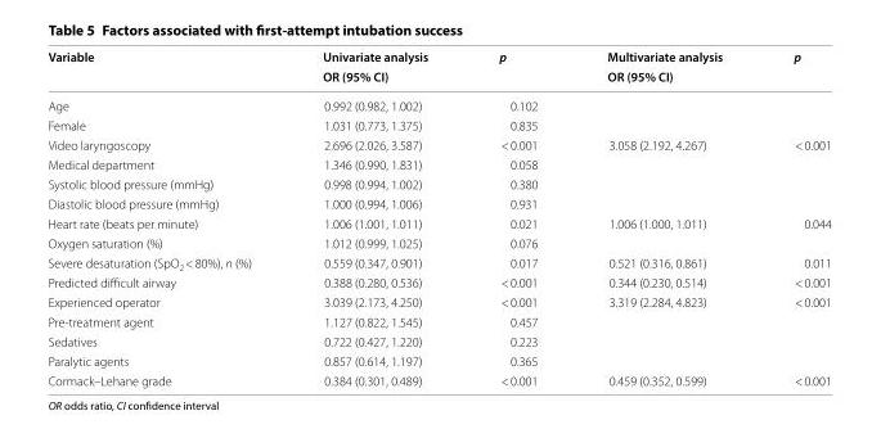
<table><thead><tr><td rowspan="2">Variable</td><td rowspan="2">Univariate analysis OR (95% CI)</td><td rowspan="2">p</td><td rowspan="2">Multivariate analysis OR (95% CI)</td><td rowspan="2">p</td></tr><tr></tr></thead><tbody><tr><td>Age</td><td>0.992 (0.982, 1.002)</td><td>0.102</td><td></td><td></td></tr><tr><td>Female</td><td>1.031 (0.773, 1.375)</td><td>0.835</td><td></td><td></td></tr><tr><td>Video laryngoscopy</td><td>2.696 (2.026, 3.587)</td><td>&lt; 0.001</td><td>3.058 (2.192, 4.267)</td><td>&lt; 0.001</td></tr><tr><td>Medical department</td><td>1.346 (0.990, 1.831)</td><td>0.058</td><td></td><td></td></tr><tr><td>Systolic blood pressure (mmHg)</td><td>0.998 (0.994, 1.002)</td><td>0.380</td><td></td><td></td></tr><tr><td>Diastolic blood pressure (mmHg)</td><td>1.000 (0.994, 1.006)</td><td>0.931</td><td></td><td></td></tr><tr><td>Heart rate (beats per minute)</td><td>1.006 (1.001, 1.011)</td><td>0.021</td><td>1.006 (1.000, 1.011)</td><td>0.044</td></tr><tr><td>Oxygen saturation (%)</td><td>1.012 (0.999, 1.025)</td><td>0.076</td><td></td><td></td></tr><tr><td>Severe desaturation (SpO<sub>2</sub> &lt; 80%), n (%)</td><td>0.559 (0.347, 0.901)</td><td>0.017</td><td>0.521 (0.316, 0.861)</td><td>0.011</td></tr><tr><td>Predicted difficult airway</td><td>0.388 (0.280, 0.536)</td><td>&lt; 0.001</td><td>0.344 (0.230, 0.514)</td><td>&lt; 0.001</td></tr><tr><td>Experienced operator</td><td>3.039 (2.173, 4.250)</td><td>&lt; 0.001</td><td>3.319 (2.284, 4.823)</td><td>&lt; 0.001</td></tr><tr><td>Pre‑treatment agent</td><td>1.127 (0.822, 1.545)</td><td>0.457</td><td></td><td></td></tr><tr><td>Sedatives</td><td>0.722 (0.427, 1.220)</td><td>0.223</td><td></td><td></td></tr><tr><td>Paralytic agents</td><td>0.857 (0.614, 1.197)</td><td>0.365</td><td></td><td></td></tr><tr><td>Cormack–Lehane grade</td><td>0.384 (0.301, 0.489)</td><td>&lt; 0.001</td><td>0.459 (0.352, 0.599)</td><td>&lt; 0.001</td></tr></tbody></table>